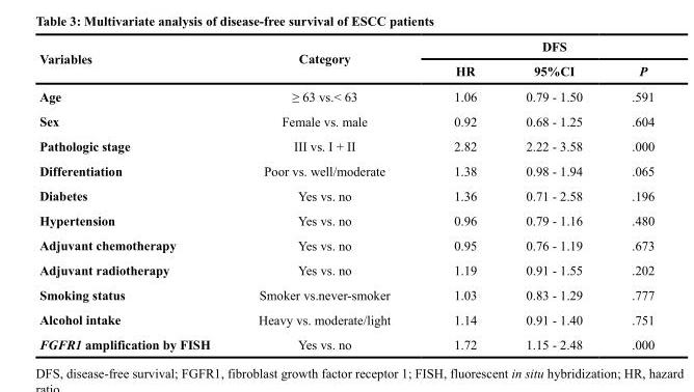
<table><thead><tr><td rowspan="2">Variables</td><td rowspan="2">Category</td><td colspan="3">DFS</td></tr><tr><td>HR</td><td>95%CI</td><td>P</td></tr></thead><tbody><tr><td>Age</td><td>≥ 63 vs.&lt; 63</td><td>1.06</td><td>0.79 - 1.50</td><td>.591</td></tr><tr><td>Sex</td><td>Female vs. male</td><td>0.92</td><td>0.68 - 1.25</td><td>.604</td></tr><tr><td>Pathologic stage</td><td>III vs. I + II</td><td>2.82</td><td>2.22 - 3.58</td><td>.000</td></tr><tr><td>Differentiation</td><td>Poor vs. well/moderate</td><td>1.38</td><td>0.98 - 1.94</td><td>.065</td></tr><tr><td>Diabetes</td><td>Yes vs. no</td><td>1.36</td><td>0.71 - 2.58</td><td>.196</td></tr><tr><td>Hypertension</td><td>Yes vs. no</td><td>0.96</td><td>0.79 - 1.16</td><td>.480</td></tr><tr><td>Adjuvant chemotherapy</td><td>Yes vs. no</td><td>0.95</td><td>0.76 - 1.19</td><td>.673</td></tr><tr><td>Adjuvant radiotherapy</td><td>Yes vs. no</td><td>1.19</td><td>0.91 - 1.55</td><td>.202</td></tr><tr><td>Smoking status</td><td>Smoker vs.never-smoker</td><td>1.03</td><td>0.83 - 1.29</td><td>.777</td></tr><tr><td>Alcohol intake</td><td>Heavy vs. moderate/light</td><td>1.14</td><td>0.91 - 1.40</td><td>.751</td></tr><tr><td>FGFR1 amplification by FISH</td><td>Yes vs. no</td><td>1.72</td><td>1.15 - 2.48</td><td>.000</td></tr></tbody></table>